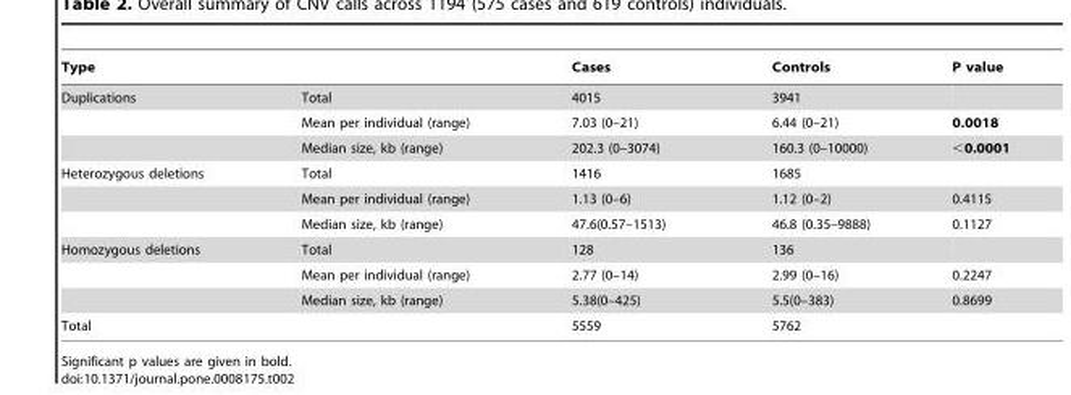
<table><thead><tr><td>Type</td><td></td><td>Cases</td><td>Controls</td><td>P value</td></tr></thead><tbody><tr><td rowspan="3">Duplications</td><td>Total</td><td>4015</td><td>3941</td><td></td></tr><tr><td>Mean per individual (range)</td><td>7.03 (0–21)</td><td>6.44 (0–21)</td><td>0.0018</td></tr><tr><td>Median size, kb (range)</td><td>202.3 (0–3074)</td><td>160.3 (0–10000)</td><td>&lt;0.0001</td></tr><tr><td rowspan="3">Heterozygous deletions</td><td>Total</td><td>1416</td><td>1685</td><td></td></tr><tr><td>Mean per individual (range)</td><td>1.13 (0–6)</td><td>1.12 (0–2)</td><td>0.4115</td></tr><tr><td>Median size, kb (range)</td><td>47.6(0.57–1513)</td><td>46.8 (0.35–9888)</td><td>0.1127</td></tr><tr><td rowspan="3">Homozygous deletions</td><td>Total</td><td>128</td><td>136</td><td></td></tr><tr><td>Mean per individual (range)</td><td>2.77 (0–14)</td><td>2.99 (0–16)</td><td>0.2247</td></tr><tr><td>Median size, kb (range)</td><td>5.38(0–425)</td><td>5.5(0–383)</td><td>0.8699</td></tr><tr><td>Total</td><td></td><td>5559</td><td>5762</td><td></td></tr></tbody></table>